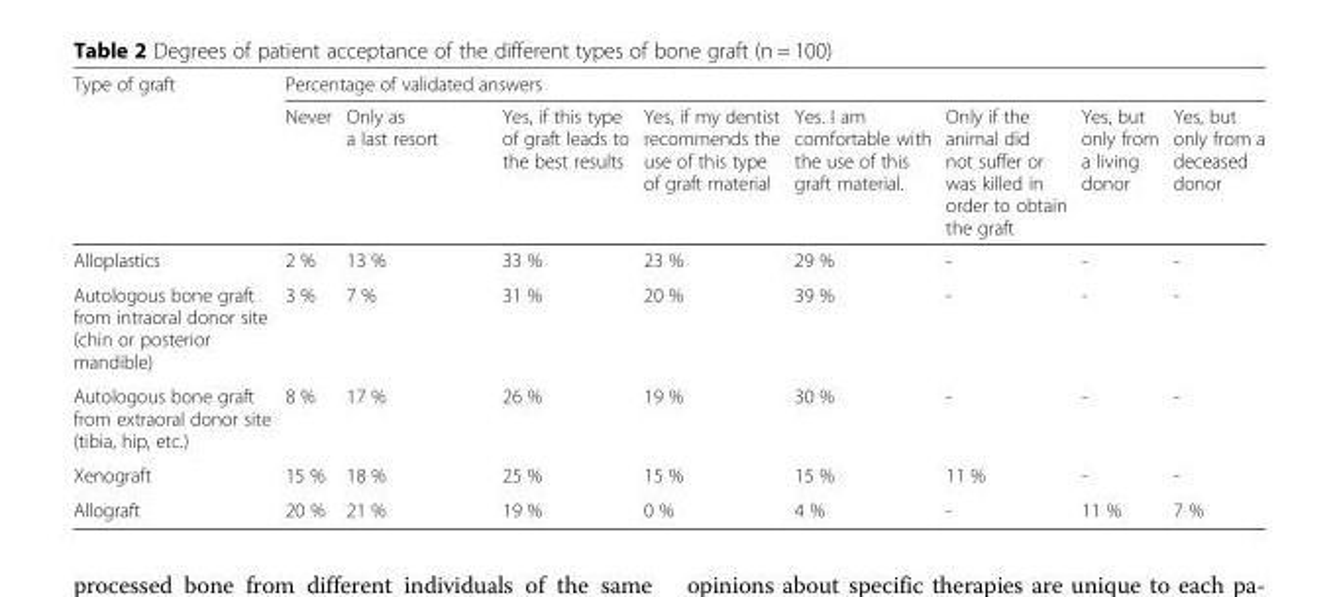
<table><thead><tr><td rowspan="2">Type of graft</td><td colspan="8">Percentage of validated answers</td></tr><tr><td>Never</td><td>Only as a last resort</td><td>Yes, if this type of graft leads to the best results</td><td>Yes, if my dentist recommends the use of this type of graft material</td><td>Yes. I am comfortable with the use of this graft material.</td><td>Only if the animal did not suffer or was killed in order to obtain the graft</td><td>Yes, but only from a living donor</td><td>Yes, but only from a deceased donor</td></tr></thead><tbody><tr><td>Alloplastics</td><td>2 %</td><td>13 %</td><td>33 %</td><td>23 %</td><td>29 %</td><td>-</td><td>-</td><td>-</td></tr><tr><td>Autologous bone graft from intraoral donor site (chin or posterior mandible)</td><td>3 %</td><td>7 %</td><td>31 %</td><td>20 %</td><td>39 %</td><td>-</td><td>-</td><td>-</td></tr><tr><td>Autologous bone graft from extraoral donor site (tibia, hip, etc.)</td><td>8 %</td><td>17 %</td><td>26 %</td><td>19 %</td><td>30 %</td><td>-</td><td>-</td><td>-</td></tr><tr><td>Xenograft</td><td>15 %</td><td>18 %</td><td>25 %</td><td>15 %</td><td>15 %</td><td>11 %</td><td>-</td><td>-</td></tr><tr><td>Allograft</td><td>20 %</td><td>21 %</td><td>19 %</td><td>0 %</td><td>4 %</td><td>-</td><td>11 %</td><td>7 %</td></tr></tbody></table>